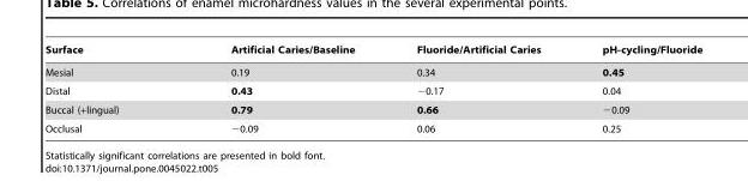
<table><thead><tr><td>Surface</td><td>Artificial Caries/Baseline</td><td>Fluoride/Artificial Caries</td><td>pH-cycling/Fluoride</td></tr></thead><tbody><tr><td>Mesial</td><td>0.19</td><td>0.34</td><td>0.45</td></tr><tr><td>Distal</td><td>0.43</td><td>−0.17</td><td>0.04</td></tr><tr><td>Buccal (+lingual)</td><td>0.79</td><td>0.66</td><td>−0.09</td></tr><tr><td>Occlusal</td><td>−0.09</td><td>0.06</td><td>0.25</td></tr></tbody></table>